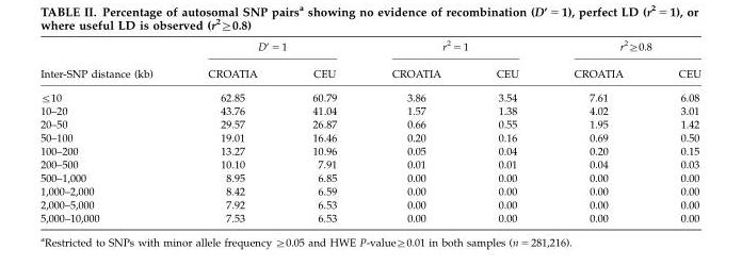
<table><thead><tr><td rowspan="2">Inter-SNP distance (kb)</td><td colspan="2">D’ = 1</td><td colspan="2">r<sup>2</sup> = 1</td><td colspan="2">r<sup>2</sup>≥0.8</td></tr><tr><td>CROATIA</td><td>CEU</td><td>CROATIA</td><td>CEU</td><td>CROATIA</td><td>CEU</td></tr></thead><tbody><tr><td>≤10</td><td>62.85</td><td>60.79</td><td>3.86</td><td>3.54</td><td>7.61</td><td>6.08</td></tr><tr><td>10–20</td><td>43.76</td><td>41.04</td><td>1.57</td><td>1.38</td><td>4.02</td><td>3.01</td></tr><tr><td>20–50</td><td>29.57</td><td>26.87</td><td>0.66</td><td>0.55</td><td>1.95</td><td>1.42</td></tr><tr><td>50–100</td><td>19.01</td><td>16.46</td><td>0.20</td><td>0.16</td><td>0.69</td><td>0.50</td></tr><tr><td>100–200</td><td>13.27</td><td>10.96</td><td>0.05</td><td>0.04</td><td>0.20</td><td>0.15</td></tr><tr><td>200–500</td><td>10.10</td><td>7.91</td><td>0.01</td><td>0.01</td><td>0.04</td><td>0.03</td></tr><tr><td>500–1,000</td><td>8.95</td><td>6.85</td><td>0.00</td><td>0.00</td><td>0.00</td><td>0.00</td></tr><tr><td>1,000–2,000</td><td>8.42</td><td>6.59</td><td>0.00</td><td>0.00</td><td>0.00</td><td>0.00</td></tr><tr><td>2,000–5,000</td><td>7.92</td><td>6.53</td><td>0.00</td><td>0.00</td><td>0.00</td><td>0.00</td></tr><tr><td>5,000–10,000</td><td>7.53</td><td>6.53</td><td>0.00</td><td>0.00</td><td>0.00</td><td>0.00</td></tr></tbody></table>